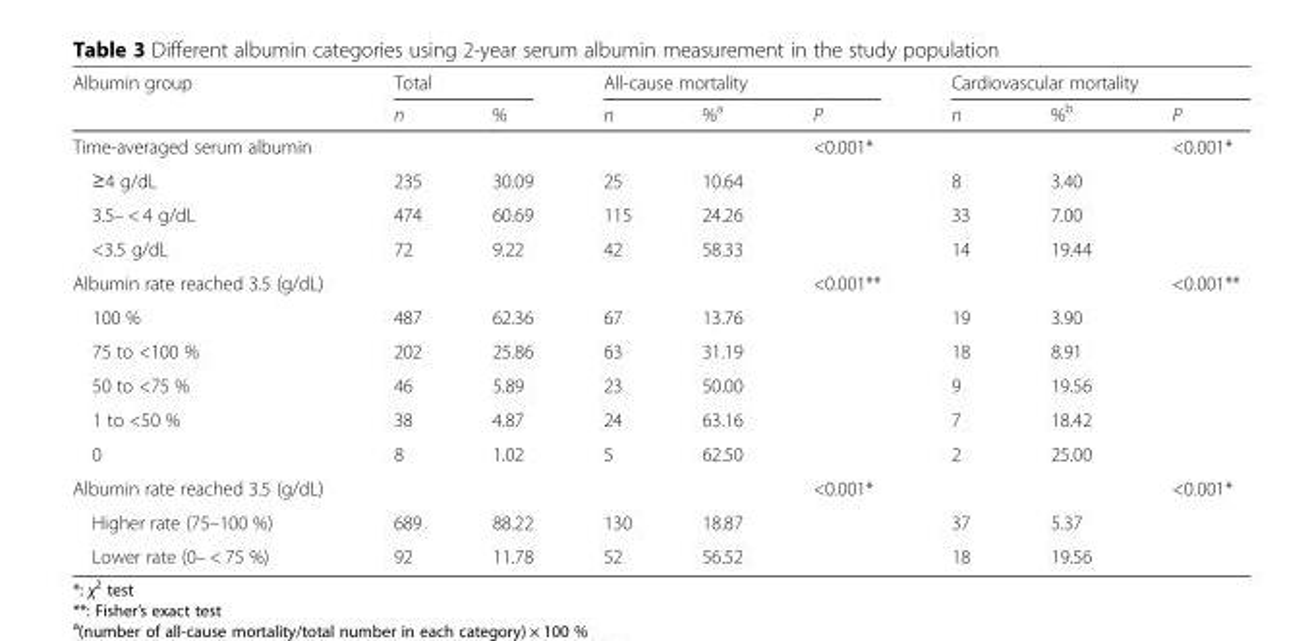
<table><thead><tr><td rowspan="2">Albumin group</td><td colspan="2">Total</td><td colspan="3">All-cause mortality</td><td colspan="3">Cardiovascular mortality</td></tr><tr><td>n</td><td>%</td><td>n</td><td>%<sup>a</sup></td><td>P</td><td>n</td><td>%<sup>b</sup></td><td>P</td></tr></thead><tbody><tr><td>Time-averaged serum albumin</td><td></td><td></td><td></td><td></td><td>&lt;0.001*</td><td></td><td></td><td>&lt;0.001*</td></tr><tr><td>≥4 g/dL</td><td>235</td><td>30.09</td><td>25</td><td>10.64</td><td></td><td>8</td><td>3.40</td><td></td></tr><tr><td>3.5– &lt; 4 g/dL</td><td>474</td><td>60.69</td><td>115</td><td>24.26</td><td></td><td>33</td><td>7.00</td><td></td></tr><tr><td>&lt;3.5 g/dL</td><td>72</td><td>9.22</td><td>42</td><td>58.33</td><td></td><td>14</td><td>19.44</td><td></td></tr><tr><td>Albumin rate reached 3.5 (g/dL)</td><td></td><td></td><td></td><td></td><td>&lt;0.001**</td><td></td><td></td><td>&lt;0.001**</td></tr><tr><td>100 %</td><td>487</td><td>62.36</td><td>67</td><td>13.76</td><td></td><td>19</td><td>3.90</td><td></td></tr><tr><td>75 to &lt;100 %</td><td>202</td><td>25.86</td><td>63</td><td>31.19</td><td></td><td>18</td><td>8.91</td><td></td></tr><tr><td>50 to &lt;75 %</td><td>46</td><td>5.89</td><td>23</td><td>50.00</td><td></td><td>9</td><td>19.56</td><td></td></tr><tr><td>1 to &lt;50 %</td><td>38</td><td>4.87</td><td>24</td><td>63.16</td><td></td><td>7</td><td>18.42</td><td></td></tr><tr><td>0</td><td>8</td><td>1.02</td><td>5</td><td>62.50</td><td></td><td>2</td><td>25.00</td><td></td></tr><tr><td>Albumin rate reached 3.5 (g/dL)</td><td></td><td></td><td></td><td></td><td>&lt;0.001*</td><td></td><td></td><td>&lt;0.001*</td></tr><tr><td>Higher rate (75–100 %)</td><td>689</td><td>88.22</td><td>130</td><td>18.87</td><td></td><td>37</td><td>5.37</td><td></td></tr><tr><td>Lower rate (0– &lt; 75 %)</td><td>92</td><td>11.78</td><td>52</td><td>56.52</td><td></td><td>18</td><td>19.56</td><td></td></tr></tbody></table>